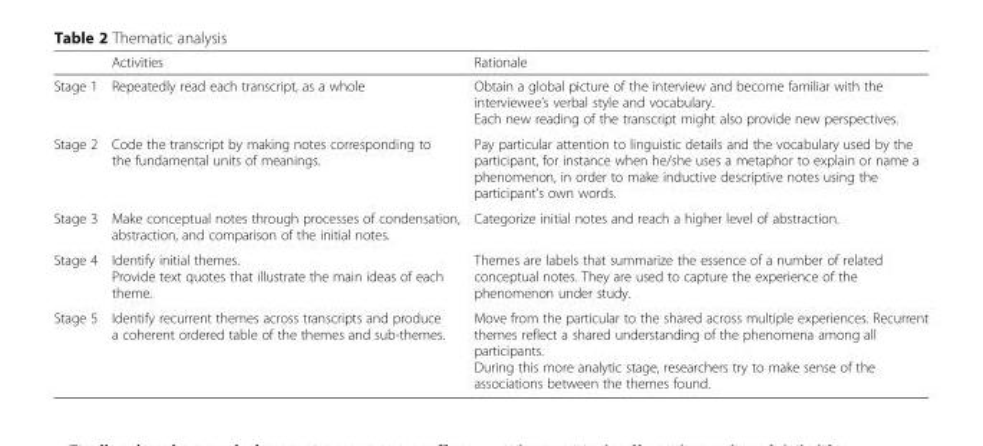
<table><thead><tr><td></td><td>Activities</td><td>Rationale</td></tr></thead><tbody><tr><td>Stage 1</td><td>Repeatedly read each transcript, as a whole</td><td>Obtain a global picture of the interview and become familiar with the interviewee’s verbal style and vocabulary. Each new reading of the transcript might also provide new perspectives.</td></tr><tr><td>Stage 2</td><td>Code the transcript by making notes corresponding to the fundamental units of meanings.</td><td>Pay particular attention to linguistic details and the vocabulary used by the participant, for instance when he/she uses a metaphor to explain or name a phenomenon, in order to make inductive descriptive notes using the participant’s own words.</td></tr><tr><td>Stage 3</td><td>Make conceptual notes through processes of condensation, abstraction, and comparison of the initial notes.</td><td>Categorize initial notes and reach a higher level of abstraction.</td></tr><tr><td>Stage 4</td><td>Identify initial themes. Provide text quotes that illustrate the main ideas of each theme.</td><td>Themes are labels that summarize the essence of a number of related conceptual notes. They are used to capture the experience of the phenomenon under study.</td></tr><tr><td>Stage 5</td><td>Identify recurrent themes across transcripts and produce a coherent ordered table of the themes and sub-themes.</td><td>Move from the particular to the shared across multiple experiences. Recurrent themes reflect a shared understanding of the phenomena among all participants. During this more analytic stage, researchers try to make sense of the associations between the themes found.</td></tr></tbody></table>